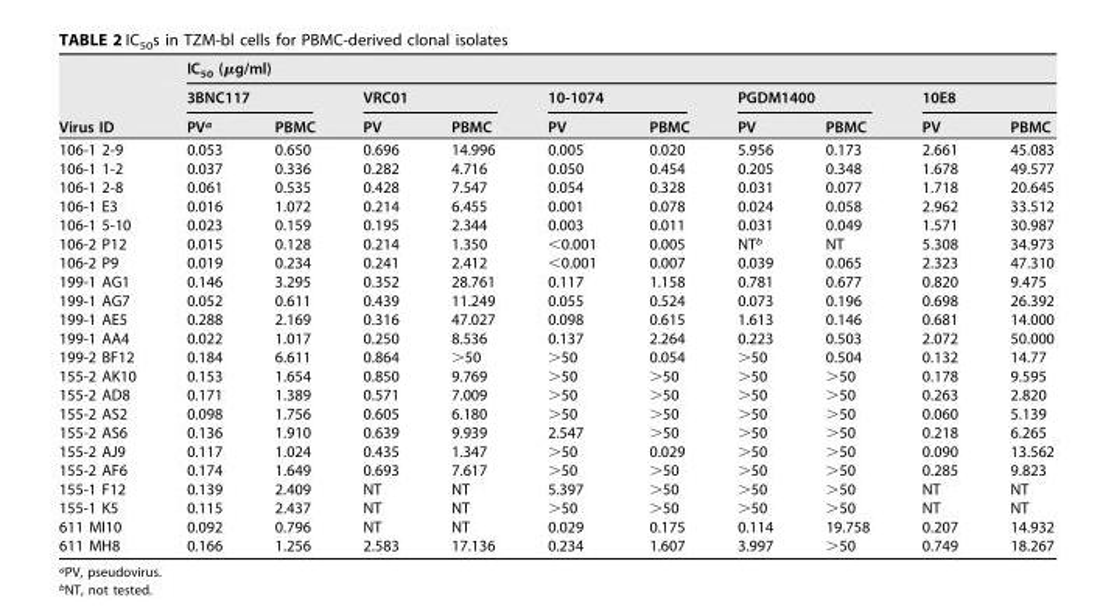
<table><thead><tr><td rowspan="3">Virus ID</td><td colspan="10">IC<sub>50</sub> (μg/ml)</td></tr><tr><td colspan="2">3BNC117</td><td colspan="2">VRC01</td><td colspan="2">10-1074</td><td colspan="2">PGDM1400</td><td colspan="2">10E8</td></tr><tr><td>PV<sup>a</sup></td><td>PBMC</td><td>PV</td><td>PBMC</td><td>PV</td><td>PBMC</td><td>PV</td><td>PBMC</td><td>PV</td><td>PBMC</td></tr></thead><tbody><tr><td>106-1 2-9</td><td>0.053</td><td>0.650</td><td>0.696</td><td>14.996</td><td>0.005</td><td>0.020</td><td>5.956</td><td>0.173</td><td>2.661</td><td>45.083</td></tr><tr><td>106-1 1-2</td><td>0.037</td><td>0.336</td><td>0.282</td><td>4.716</td><td>0.050</td><td>0.454</td><td>0.205</td><td>0.348</td><td>1.678</td><td>49.577</td></tr><tr><td>106-1 2-8</td><td>0.061</td><td>0.535</td><td>0.428</td><td>7.547</td><td>0.054</td><td>0.328</td><td>0.031</td><td>0.077</td><td>1.718</td><td>20.645</td></tr><tr><td>106-1 E3</td><td>0.016</td><td>1.072</td><td>0.214</td><td>6.455</td><td>0.001</td><td>0.078</td><td>0.024</td><td>0.058</td><td>2.962</td><td>33.512</td></tr><tr><td>106-1 5-10</td><td>0.023</td><td>0.159</td><td>0.195</td><td>2.344</td><td>0.003</td><td>0.011</td><td>0.031</td><td>0.049</td><td>1.571</td><td>30.987</td></tr><tr><td>106-2 P12</td><td>0.015</td><td>0.128</td><td>0.214</td><td>1.350</td><td>&lt;0.001</td><td>0.005</td><td>NT<sup>b</sup></td><td>NT</td><td>5.308</td><td>34.973</td></tr><tr><td>106-2 P9</td><td>0.019</td><td>0.234</td><td>0.241</td><td>2.412</td><td>&lt;0.001</td><td>0.007</td><td>0.039</td><td>0.065</td><td>2.323</td><td>47.310</td></tr><tr><td>199-1 AG1</td><td>0.146</td><td>3.295</td><td>0.352</td><td>28.761</td><td>0.117</td><td>1.158</td><td>0.781</td><td>0.677</td><td>0.820</td><td>9.475</td></tr><tr><td>199-1 AG7</td><td>0.052</td><td>0.611</td><td>0.439</td><td>11.249</td><td>0.055</td><td>0.524</td><td>0.073</td><td>0.196</td><td>0.698</td><td>26.392</td></tr><tr><td>199-1 AE5</td><td>0.288</td><td>2.169</td><td>0.316</td><td>47.027</td><td>0.098</td><td>0.615</td><td>1.613</td><td>0.146</td><td>0.681</td><td>14.000</td></tr><tr><td>199-1 AA4</td><td>0.022</td><td>1.017</td><td>0.250</td><td>8.536</td><td>0.137</td><td>2.264</td><td>0.223</td><td>0.503</td><td>2.072</td><td>50.000</td></tr><tr><td>199-2 BF12</td><td>0.184</td><td>6.611</td><td>0.864</td><td>&gt;50</td><td>&gt;50</td><td>0.054</td><td>&gt;50</td><td>0.504</td><td>0.132</td><td>14.77</td></tr><tr><td>155-2 AK10</td><td>0.153</td><td>1.654</td><td>0.850</td><td>9.769</td><td>&gt;50</td><td>&gt;50</td><td>&gt;50</td><td>&gt;50</td><td>0.178</td><td>9.595</td></tr><tr><td>155-2 AD8</td><td>0.171</td><td>1.389</td><td>0.571</td><td>7.009</td><td>&gt;50</td><td>&gt;50</td><td>&gt;50</td><td>&gt;50</td><td>0.263</td><td>2.820</td></tr><tr><td>155-2 AS2</td><td>0.098</td><td>1.756</td><td>0.605</td><td>6.180</td><td>&gt;50</td><td>&gt;50</td><td>&gt;50</td><td>&gt;50</td><td>0.060</td><td>5.139</td></tr><tr><td>155-2 AS6</td><td>0.136</td><td>1.910</td><td>0.639</td><td>9.939</td><td>2.547</td><td>&gt;50</td><td>&gt;50</td><td>&gt;50</td><td>0.218</td><td>6.265</td></tr><tr><td>155-2 AJ9</td><td>0.117</td><td>1.024</td><td>0.435</td><td>1.347</td><td>&gt;50</td><td>0.029</td><td>&gt;50</td><td>&gt;50</td><td>0.090</td><td>13.562</td></tr><tr><td>155-2 AF6</td><td>0.174</td><td>1.649</td><td>0.693</td><td>7.617</td><td>&gt;50</td><td>&gt;50</td><td>&gt;50</td><td>&gt;50</td><td>0.285</td><td>9.823</td></tr><tr><td>155-1 F12</td><td>0.139</td><td>2.409</td><td>NT</td><td>NT</td><td>5.397</td><td>&gt;50</td><td>&gt;50</td><td>&gt;50</td><td>NT</td><td>NT</td></tr><tr><td>155-1 K5</td><td>0.115</td><td>2.437</td><td>NT</td><td>NT</td><td>&gt;50</td><td>&gt;50</td><td>&gt;50</td><td>&gt;50</td><td>NT</td><td>NT</td></tr><tr><td>611 MI10</td><td>0.092</td><td>0.796</td><td>NT</td><td>NT</td><td>0.029</td><td>0.175</td><td>0.114</td><td>19.758</td><td>0.207</td><td>14.932</td></tr><tr><td>611 MH8</td><td>0.166</td><td>1.256</td><td>2.583</td><td>17.136</td><td>0.234</td><td>1.607</td><td>3.997</td><td>&gt;50</td><td>0.749</td><td>18.267</td></tr></tbody></table>